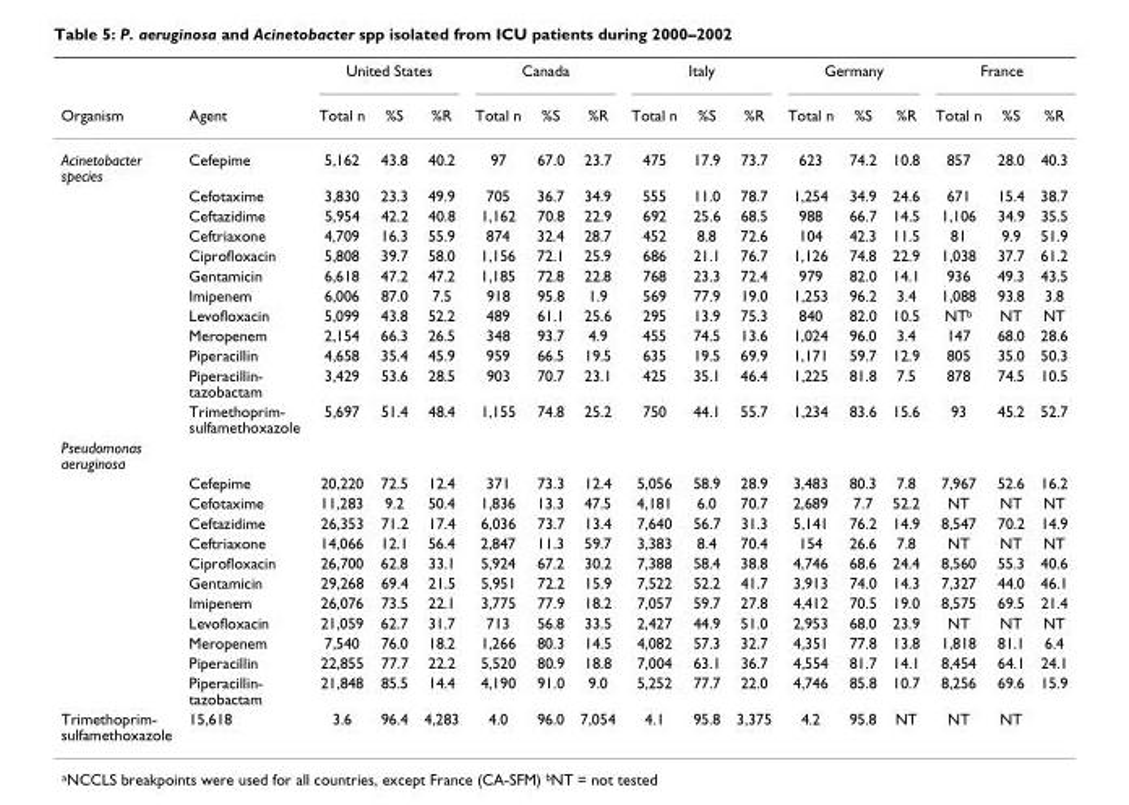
<table><thead><tr><td rowspan="2">Organism</td><td rowspan="2">Agent</td><td colspan="3">United States</td><td colspan="3">Canada</td><td colspan="3">Italy</td><td colspan="3">Germany</td><td colspan="3">France</td></tr><tr><td>Total n</td><td>%S</td><td>%R</td><td>Total n</td><td>%S</td><td>%R</td><td>Total n</td><td>%S</td><td>%R</td><td>Total n</td><td>%S</td><td>%R</td><td>Total n</td><td>%S</td><td>%R</td></tr></thead><tbody><tr><td rowspan="12">Acinetobacter species</td><td>Cefepime</td><td>5,162</td><td>43.8</td><td>40.2</td><td>97</td><td>67.0</td><td>23.7</td><td>475</td><td>17.9</td><td>73.7</td><td>623</td><td>74.2</td><td>10.8</td><td>857</td><td>28.0</td><td>40.3</td></tr><tr><td>Cefotaxime</td><td>3,830</td><td>23.3</td><td>49.9</td><td>705</td><td>36.7</td><td>34.9</td><td>555</td><td>11.0</td><td>78.7</td><td>1,254</td><td>34.9</td><td>24.6</td><td>671</td><td>15.4</td><td>38.7</td></tr><tr><td>Ceftazidime</td><td>5,954</td><td>42.2</td><td>40.8</td><td>1,162</td><td>70.8</td><td>22.9</td><td>692</td><td>25.6</td><td>68.5</td><td>988</td><td>66.7</td><td>14.5</td><td>1,106</td><td>34.9</td><td>35.5</td></tr><tr><td>Ceftriaxone</td><td>4,709</td><td>16.3</td><td>55.9</td><td>874</td><td>32.4</td><td>28.7</td><td>452</td><td>8.8</td><td>72.6</td><td>104</td><td>42.3</td><td>11.5</td><td>81</td><td>9.9</td><td>51.9</td></tr><tr><td>Ciprofloxacin</td><td>5,808</td><td>39.7</td><td>58.0</td><td>1,156</td><td>72.1</td><td>25.9</td><td>686</td><td>21.1</td><td>76.7</td><td>1,126</td><td>74.8</td><td>22.9</td><td>1,038</td><td>37.7</td><td>61.2</td></tr><tr><td>Gentamicin</td><td>6,618</td><td>47.2</td><td>47.2</td><td>1,185</td><td>72.8</td><td>22.8</td><td>768</td><td>23.3</td><td>72.4</td><td>979</td><td>82.0</td><td>14.1</td><td>936</td><td>49.3</td><td>43.5</td></tr><tr><td>Imipenem</td><td>6,006</td><td>87.0</td><td>7.5</td><td>918</td><td>95.8</td><td>1.9</td><td>569</td><td>77.9</td><td>19.0</td><td>1,253</td><td>96.2</td><td>3.4</td><td>1,088</td><td>93.8</td><td>3.8</td></tr><tr><td>Levofloxacin</td><td>5,099</td><td>43.8</td><td>52.2</td><td>489</td><td>61.1</td><td>25.6</td><td>295</td><td>13.9</td><td>75.3</td><td>840</td><td>82.0</td><td>10.5</td><td>NT<sup>b</sup></td><td>NT</td><td>NT</td></tr><tr><td>Meropenem</td><td>2,154</td><td>66.3</td><td>26.5</td><td>348</td><td>93.7</td><td>4.9</td><td>455</td><td>74.5</td><td>13.6</td><td>1,024</td><td>96.0</td><td>3.4</td><td>147</td><td>68.0</td><td>28.6</td></tr><tr><td>Piperacillin</td><td>4,658</td><td>35.4</td><td>45.9</td><td>959</td><td>66.5</td><td>19.5</td><td>635</td><td>19.5</td><td>69.9</td><td>1,171</td><td>59.7</td><td>12.9</td><td>805</td><td>35.0</td><td>50.3</td></tr><tr><td>Piperacillin- tazobactam</td><td>3,429</td><td>53.6</td><td>28.5</td><td>903</td><td>70.7</td><td>23.1</td><td>425</td><td>35.1</td><td>46.4</td><td>1,225</td><td>81.8</td><td>7.5</td><td>878</td><td>74.5</td><td>10.5</td></tr><tr><td>Trimethoprim- sulfamethoxazole</td><td>5,697</td><td>51.4</td><td>48.4</td><td>1,155</td><td>74.8</td><td>25.2</td><td>750</td><td>44.1</td><td>55.7</td><td>1,234</td><td>83.6</td><td>15.6</td><td>93</td><td>45.2</td><td>52.7</td></tr><tr><td colspan="17">Pseudomonas aeruginosa</td></tr><tr><td></td><td>Cefepime</td><td>20,220</td><td>72.5</td><td>12.4</td><td>371</td><td>73.3</td><td>12.4</td><td>5,056</td><td>58.9</td><td>28.9</td><td>3,483</td><td>80.3</td><td>7.8</td><td>7,967</td><td>52.6</td><td>16.2</td></tr><tr><td></td><td>Cefotaxime</td><td>11,283</td><td>9.2</td><td>50.4</td><td>1,836</td><td>13.3</td><td>47.5</td><td>4,181</td><td>6.0</td><td>70.7</td><td>2,689</td><td>7.7</td><td>52.2</td><td>NT</td><td>NT</td><td>NT</td></tr><tr><td></td><td>Ceftazidime</td><td>26,353</td><td>71.2</td><td>17.4</td><td>6,036</td><td>73.7</td><td>13.4</td><td>7,640</td><td>56.7</td><td>31.3</td><td>5,141</td><td>76.2</td><td>14.9</td><td>8,547</td><td>70.2</td><td>14.9</td></tr><tr><td></td><td>Ceftriaxone</td><td>14,066</td><td>12.1</td><td>56.4</td><td>2,847</td><td>11.3</td><td>59.7</td><td>3,383</td><td>8.4</td><td>70.4</td><td>154</td><td>26.6</td><td>7.8</td><td>NT</td><td>NT</td><td>NT</td></tr><tr><td></td><td>Ciprofloxacin</td><td>26,700</td><td>62.8</td><td>33.1</td><td>5,924</td><td>67.2</td><td>30.2</td><td>7,388</td><td>58.4</td><td>38.8</td><td>4,746</td><td>68.6</td><td>24.4</td><td>8,560</td><td>55.3</td><td>40.6</td></tr><tr><td></td><td>Gentamicin</td><td>29,268</td><td>69.4</td><td>21.5</td><td>5,951</td><td>72.2</td><td>15.9</td><td>7,522</td><td>52.2</td><td>41.7</td><td>3,913</td><td>74.0</td><td>14.3</td><td>7,327</td><td>44.0</td><td>46.1</td></tr><tr><td></td><td>Imipenem</td><td>26,076</td><td>73.5</td><td>22.1</td><td>3,775</td><td>77.9</td><td>18.2</td><td>7,057</td><td>59.7</td><td>27.8</td><td>4,412</td><td>70.5</td><td>19.0</td><td>8,575</td><td>69.5</td><td>21.4</td></tr><tr><td></td><td>Levofloxacin</td><td>21,059</td><td>62.7</td><td>31.7</td><td>713</td><td>56.8</td><td>33.5</td><td>2,427</td><td>44.9</td><td>51.0</td><td>2,953</td><td>68.0</td><td>23.9</td><td>NT</td><td>NT</td><td>NT</td></tr><tr><td></td><td>Meropenem</td><td>7,540</td><td>76.0</td><td>18.2</td><td>1,266</td><td>80.3</td><td>14.5</td><td>4,082</td><td>57.3</td><td>32.7</td><td>4,351</td><td>77.8</td><td>13.8</td><td>1,818</td><td>81.1</td><td>6.4</td></tr><tr><td></td><td>Piperacillin</td><td>22,855</td><td>77.7</td><td>22.2</td><td>5,520</td><td>80.9</td><td>18.8</td><td>7,004</td><td>63.1</td><td>36.7</td><td>4,554</td><td>81.7</td><td>14.1</td><td>8,454</td><td>64.1</td><td>24.1</td></tr><tr><td></td><td>Piperacillin- tazobactam</td><td>21,848</td><td>85.5</td><td>14.4</td><td>4,190</td><td>91.0</td><td>9.0</td><td>5,252</td><td>77.7</td><td>22.0</td><td>4,746</td><td>85.8</td><td>10.7</td><td>8,256</td><td>69.6</td><td>15.9</td></tr><tr><td>Trimethoprim- sulfamethoxazole</td><td>15,618</td><td>3.6</td><td>96.4</td><td>4,283</td><td>4.0</td><td>96.0</td><td>7,054</td><td>4.1</td><td>95.8</td><td>3,375</td><td>4.2</td><td>95.8</td><td>NT</td><td>NT</td><td>NT</td><td></td></tr></tbody></table>